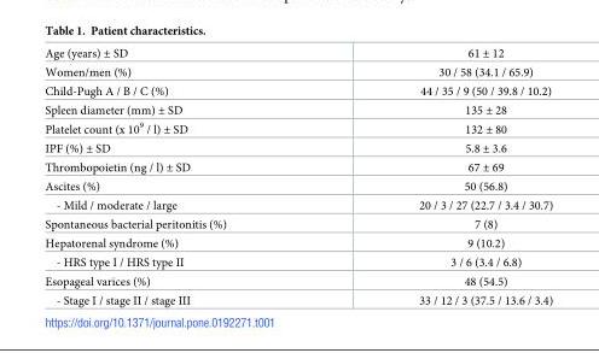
<table><tbody><tr><td>Age (years) ± SD</td><td>61 ± 12</td></tr><tr><td>Women/men (%)</td><td>30 / 58 (34.1 / 65.9)</td></tr><tr><td>Child-Pugh A / B / C (%)</td><td>44 / 35 / 9 (50 / 39.8 / 10.2)</td></tr><tr><td>Spleen diameter (mm) ± SD</td><td>135 ± 28</td></tr><tr><td>Platelet count (x 10<sup>9</sup> / l) ± SD</td><td>132 ± 80</td></tr><tr><td>IPF (%) ± SD</td><td>5.8 ± 3.6</td></tr><tr><td>Thrombopoietin (ng / l) ± SD</td><td>67 ± 69</td></tr><tr><td>Ascites (%)</td><td>50 (56.8)</td></tr><tr><td>- Mild / moderate / large</td><td>20 / 3 / 27 (22.7 / 3.4 / 30.7)</td></tr><tr><td>Spontaneous bacterial peritonitis (%)</td><td>7 (8)</td></tr><tr><td>Hepatorenal syndrome (%)</td><td>9 (10.2)</td></tr><tr><td>- HRS type I / HRS type II</td><td>3 / 6 (3.4 / 6.8)</td></tr><tr><td>Esopageal varices (%)</td><td>48 (54.5)</td></tr><tr><td>- Stage I / stage II / stage III</td><td>33 / 12 / 3 (37.5 / 13.6 / 3.4)</td></tr></tbody></table>